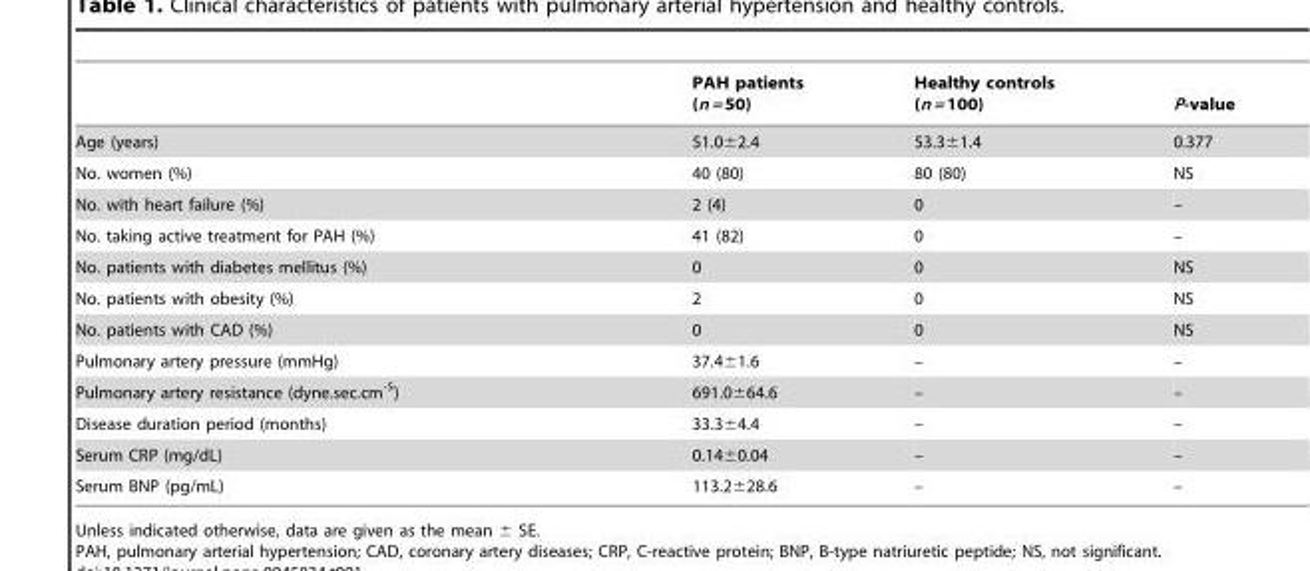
<table><thead><tr><td></td><td>PAH patients (n = 50)</td><td>Healthy controls (n = 100)</td><td>P-value</td></tr></thead><tbody><tr><td>Age (years)</td><td>51.0±2.4</td><td>53.3±1.4</td><td>0.377</td></tr><tr><td>No. women (%)</td><td>40 (80)</td><td>80 (80)</td><td>NS</td></tr><tr><td>No. with heart failure (%)</td><td>2 (4)</td><td>0</td><td>–</td></tr><tr><td>No. taking active treatment for PAH (%)</td><td>41 (82)</td><td>0</td><td>–</td></tr><tr><td>No. patients with diabetes mellitus (%)</td><td>0</td><td>0</td><td>NS</td></tr><tr><td>No. patients with obesity (%)</td><td>2</td><td>0</td><td>NS</td></tr><tr><td>No. patients with CAD (%)</td><td>0</td><td>0</td><td>NS</td></tr><tr><td>Pulmonary artery pressure (mmHg)</td><td>37.4±1.6</td><td>–</td><td>–</td></tr><tr><td>Pulmonary artery resistance (dyne.sec.cm<sup>-5</sup>)</td><td>691.0±64.6</td><td>–</td><td>–</td></tr><tr><td>Disease duration period (months)</td><td>33.3±4.4</td><td>–</td><td>–</td></tr><tr><td>Serum CRP (mg/dL)</td><td>0.14±0.04</td><td>–</td><td>–</td></tr><tr><td>Serum BNP (pg/mL)</td><td>113.2±28.6</td><td>–</td><td>–</td></tr></tbody></table>